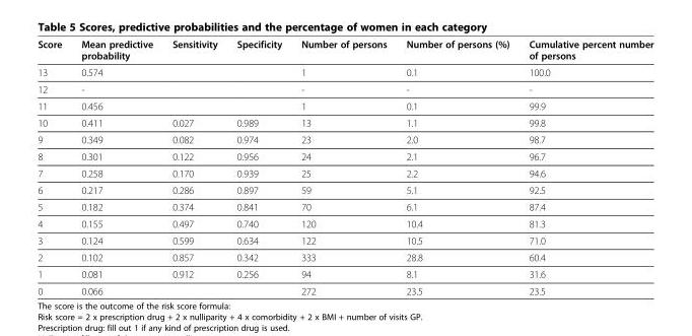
<table><thead><tr><td>Score</td><td>Mean predictive probability</td><td>Sensitivity</td><td>Specificity</td><td>Number of persons</td><td>Number of persons (%)</td><td>Cumulative percent number of persons</td></tr></thead><tbody><tr><td>13</td><td>0.574</td><td></td><td></td><td>1</td><td>0.1</td><td>100.0</td></tr><tr><td>12</td><td>-</td><td></td><td></td><td>-</td><td>-</td><td>-</td></tr><tr><td>11</td><td>0.456</td><td></td><td></td><td>1</td><td>0.1</td><td>99.9</td></tr><tr><td>10</td><td>0.411</td><td>0.027</td><td>0.989</td><td>13</td><td>1.1</td><td>99.8</td></tr><tr><td>9</td><td>0.349</td><td>0.082</td><td>0.974</td><td>23</td><td>2.0</td><td>98.7</td></tr><tr><td>8</td><td>0.301</td><td>0.122</td><td>0.956</td><td>24</td><td>2.1</td><td>96.7</td></tr><tr><td>7</td><td>0.258</td><td>0.170</td><td>0.939</td><td>25</td><td>2.2</td><td>94.6</td></tr><tr><td>6</td><td>0.217</td><td>0.286</td><td>0.897</td><td>59</td><td>5.1</td><td>92.5</td></tr><tr><td>5</td><td>0.182</td><td>0.374</td><td>0.841</td><td>70</td><td>6.1</td><td>87.4</td></tr><tr><td>4</td><td>0.155</td><td>0.497</td><td>0.740</td><td>120</td><td>10.4</td><td>81.3</td></tr><tr><td>3</td><td>0.124</td><td>0.599</td><td>0.634</td><td>122</td><td>10.5</td><td>71.0</td></tr><tr><td>2</td><td>0.102</td><td>0.857</td><td>0.342</td><td>333</td><td>28.8</td><td>60.4</td></tr><tr><td>1</td><td>0.081</td><td>0.912</td><td>0.256</td><td>94</td><td>8.1</td><td>31.6</td></tr><tr><td>0</td><td>0.066</td><td></td><td></td><td>272</td><td>23.5</td><td>23.5</td></tr></tbody></table>